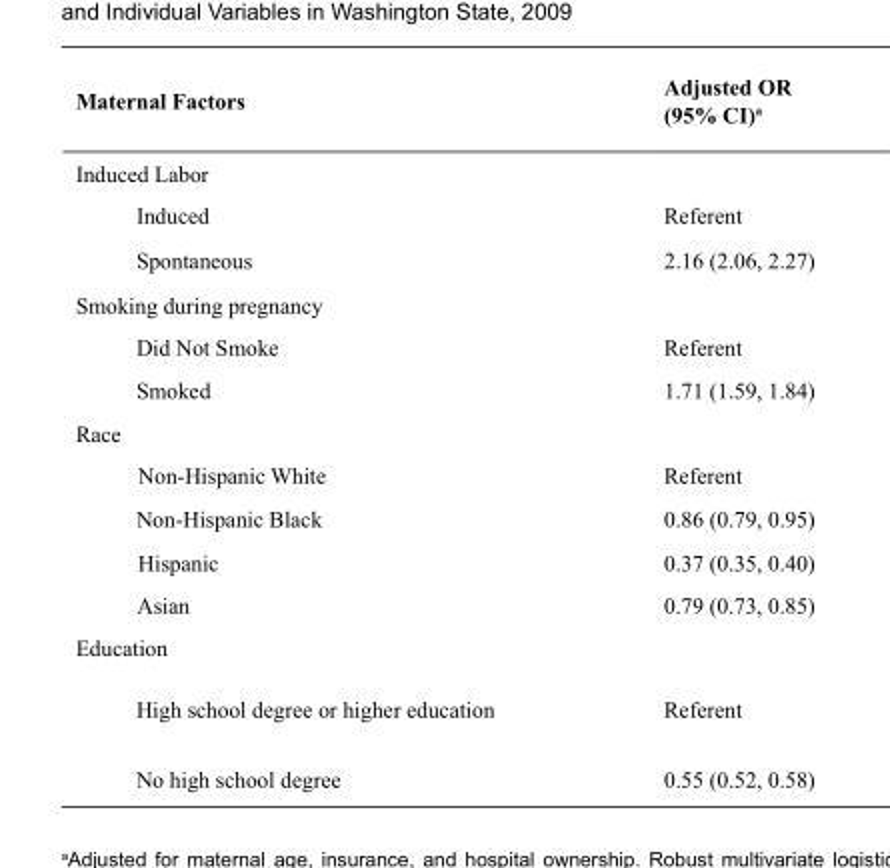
<table><thead><tr><td>Maternal Factors</td><td>Adjusted OR (95% CI)<sup>a</sup></td></tr></thead><tbody><tr><td colspan="2">Induced Labor</td></tr><tr><td>Induced</td><td>Referent</td></tr><tr><td>Spontaneous</td><td>2.16 (2.06, 2.27)</td></tr><tr><td colspan="2">Smoking during pregnancy</td></tr><tr><td>Did Not Smoke</td><td>Referent</td></tr><tr><td>Smoked</td><td>1.71 (1.59, 1.84)</td></tr><tr><td colspan="2">Race</td></tr><tr><td>Non-Hispanic White</td><td>Referent</td></tr><tr><td>Non-Hispanic Black</td><td>0.86 (0.79, 0.95)</td></tr><tr><td>Hispanic</td><td>0.37 (0.35, 0.40)</td></tr><tr><td>Asian</td><td>0.79 (0.73, 0.85)</td></tr><tr><td colspan="2">Education</td></tr><tr><td>High school degree or higher education</td><td>Referent</td></tr><tr><td>No high school degree</td><td>0.55 (0.52, 0.58)</td></tr></tbody></table>